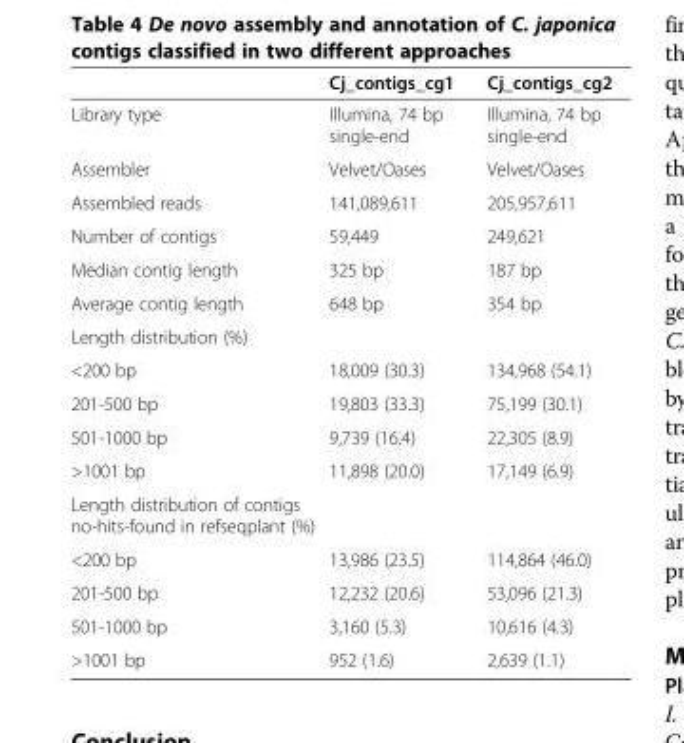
<table><thead><tr><td></td><td>Cj_contigs_cg1</td><td>Cj_contigs_cg2</td></tr></thead><tbody><tr><td>Library type</td><td>Illumina, 74 bp single-end</td><td>Illumina, 74 bp single-end</td></tr><tr><td>Assembler</td><td>Velvet/Oases</td><td>Velvet/Oases</td></tr><tr><td>Assembled reads</td><td>141,089,611</td><td>205,957,611</td></tr><tr><td>Number of contigs</td><td>59,449</td><td>249,621</td></tr><tr><td>Median contig length</td><td>325 bp</td><td>187 bp</td></tr><tr><td>Average contig length</td><td>648 bp</td><td>354 bp</td></tr><tr><td colspan="3">Length distribution (%)</td></tr><tr><td>&lt;200 bp</td><td>18,009 (30.3)</td><td>134,968 (54.1)</td></tr><tr><td>201-500 bp</td><td>19,803 (33.3)</td><td>75,199 (30.1)</td></tr><tr><td>501-1000 bp</td><td>9,739 (16.4)</td><td>22,305 (8.9)</td></tr><tr><td>&gt;1001 bp</td><td>11,898 (20.0)</td><td>17,149 (6.9)</td></tr><tr><td colspan="3">Length distribution of contigs no-hits-found in refseqplant (%)</td></tr><tr><td>&lt;200 bp</td><td>13,986 (23.5)</td><td>114,864 (46.0)</td></tr><tr><td>201-500 bp</td><td>12,232 (20.6)</td><td>53,096 (21.3)</td></tr><tr><td>501-1000 bp</td><td>3,160 (5.3)</td><td>10,616 (4.3)</td></tr><tr><td>&gt;1001 bp</td><td>952 (1.6)</td><td>2,639 (1.1)</td></tr></tbody></table>